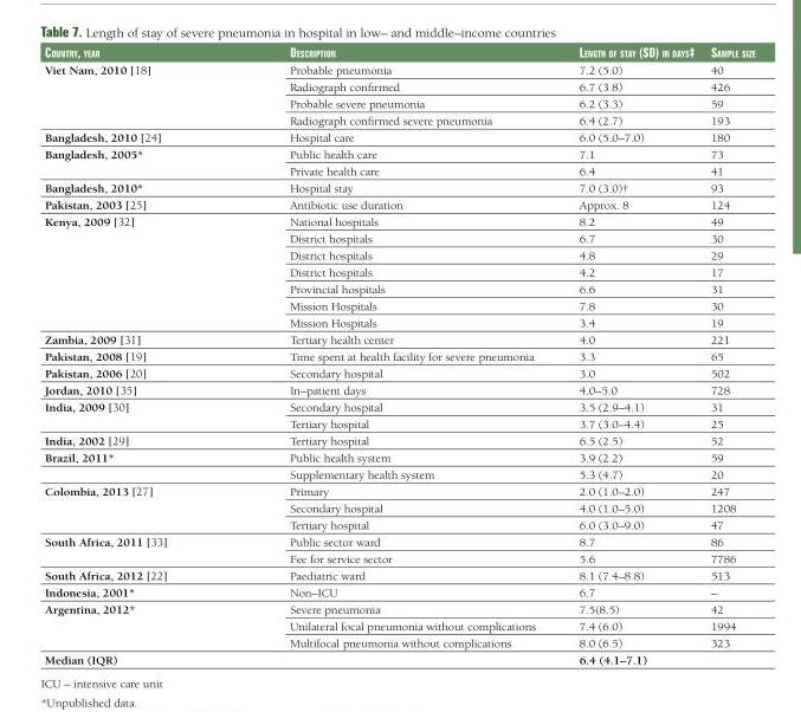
<table><thead><tr><td>COuntry, year</td><td>deSCriptiOn</td><td>lengtH Of Stay (Sd) in dayS‡</td><td>Sample Size</td></tr></thead><tbody><tr><td rowspan="4">Viet Nam, 2010 [18]</td><td>Probable pneumonia</td><td>7.2 (5.0)</td><td>40</td></tr><tr><td>Radiograph confirmed</td><td>6.7 (3.8)</td><td>426</td></tr><tr><td>Probable severe pneumonia</td><td>6.2 (3.3)</td><td>59</td></tr><tr><td>Radiograph confirmed severe pneumonia</td><td>6.4 (2.7)</td><td>193</td></tr><tr><td>Bangladesh, 2010 [24]</td><td>Hospital care</td><td>6.0 (5.0–7.0)</td><td>180</td></tr><tr><td rowspan="2">Bangladesh, 2005*</td><td>Public health care</td><td>7.1</td><td>73</td></tr><tr><td>Private health care</td><td>6.4</td><td>41</td></tr><tr><td>Bangladesh, 2010*</td><td>Hospital stay</td><td>7.0 (3.0)†</td><td>93</td></tr><tr><td>Pakistan, 2003 [25]</td><td>Antibiotic use duration</td><td>Approx. 8</td><td>124</td></tr><tr><td rowspan="7">Kenya, 2009 [32]</td><td>National hospitals</td><td>8.2</td><td>49</td></tr><tr><td>District hospitals</td><td>6.7</td><td>30</td></tr><tr><td>District hospitals</td><td>4.8</td><td>29</td></tr><tr><td>District hospitals</td><td>4.2</td><td>17</td></tr><tr><td>Provincial hospitals</td><td>6.6</td><td>31</td></tr><tr><td>Mission Hospitals</td><td>7.8</td><td>30</td></tr><tr><td>Mission Hospitals</td><td>3.4</td><td>19</td></tr><tr><td>Zambia, 2009 [31]</td><td>Tertiary health center</td><td>4.0</td><td>221</td></tr><tr><td>Pakistan, 2008 [19]</td><td>Time spent at health facility for severe pneumonia</td><td>3.3</td><td>65</td></tr><tr><td>Pakistan, 2006 [20]</td><td>Secondary hospital</td><td>3.0</td><td>502</td></tr><tr><td>Jordan, 2010 [35]</td><td>In–patient days</td><td>4.0–5.0</td><td>728</td></tr><tr><td rowspan="2">India, 2009 [30]</td><td>Secondary hospital</td><td>3.5 (2.9–4.1)</td><td>31</td></tr><tr><td>Tertiary hospital</td><td>3.7 (3.0–4.4)</td><td>25</td></tr><tr><td>India, 2002 [29]</td><td>Tertiary hospital</td><td>6.5 (2.5)</td><td>52</td></tr><tr><td rowspan="2">Brazil, 2011*</td><td>Public health system</td><td>3.9 (2.2)</td><td>59</td></tr><tr><td>Supplementary health system</td><td>5.3 (4.7)</td><td>20</td></tr><tr><td rowspan="3">Colombia, 2013 [27]</td><td>Primary</td><td>2.0 (1.0–2.0)</td><td>247</td></tr><tr><td>Secondary hospital</td><td>4.0 (1.0–5.0)</td><td>1208</td></tr><tr><td>Tertiary hospital</td><td>6.0 (3.0–9.0)</td><td>47</td></tr><tr><td rowspan="2">South Africa, 2011 [33]</td><td>Public sector ward</td><td>8.7</td><td>86</td></tr><tr><td>Fee for service sector</td><td>5.6</td><td>7786</td></tr><tr><td>South Africa, 2012 [22]</td><td>Paediatric ward</td><td>8.1 (7.4–8.8)</td><td>513</td></tr><tr><td>Indonesia, 2001*</td><td>Non–ICU</td><td>6.7</td><td>–</td></tr><tr><td rowspan="3">Argentina, 2012*</td><td>Severe pneumonia</td><td>7.5(8.5)</td><td>42</td></tr><tr><td>Unilateral focal pneumonia without complications</td><td>7.4 (6.0)</td><td>1994</td></tr><tr><td>Multifocal pneumonia without complications</td><td>8.0 (6.5)</td><td>323</td></tr><tr><td>Median (IQR)</td><td></td><td>6.4 (4.1–7.1)</td><td></td></tr></tbody></table>